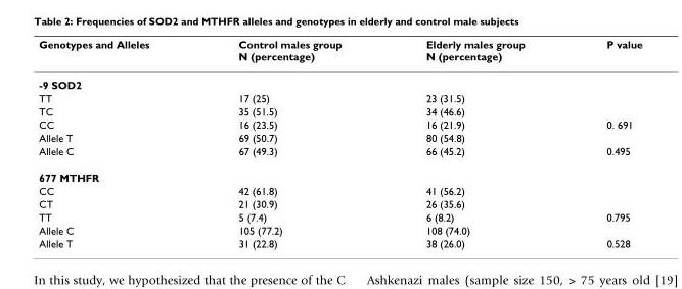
<table><thead><tr><td>Genotypes and Alleles</td><td>Control males group N (percentage)</td><td>Elderly males group N (percentage)</td><td>P value</td></tr></thead><tbody><tr><td colspan="4">-9 SOD2</td></tr><tr><td>TT</td><td>17 (25)</td><td>23 (31.5)</td><td></td></tr><tr><td>TC</td><td>35 (51.5)</td><td>34 (46.6)</td><td></td></tr><tr><td>CC</td><td>16 (23.5)</td><td>16 (21.9)</td><td>0. 691</td></tr><tr><td>Allele T</td><td>69 (50.7)</td><td>80 (54.8)</td><td></td></tr><tr><td>Allele C</td><td>67 (49.3)</td><td>66 (45.2)</td><td>0.495</td></tr><tr><td colspan="4">677 MTHFR</td></tr><tr><td>CC</td><td>42 (61.8)</td><td>41 (56.2)</td><td></td></tr><tr><td>CT</td><td>21 (30.9)</td><td>26 (35.6)</td><td></td></tr><tr><td>TT</td><td>5 (7.4)</td><td>6 (8.2)</td><td>0.795</td></tr><tr><td>Allele C</td><td>105 (77.2)</td><td>108 (74.0)</td><td></td></tr><tr><td>Allele T</td><td>31 (22.8)</td><td>38 (26.0)</td><td>0.528</td></tr></tbody></table>